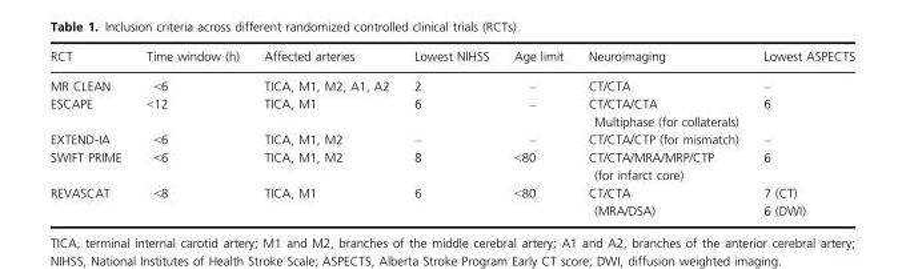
<table><thead><tr><td>RCT</td><td>Time window (h)</td><td>Affected arteries</td><td>Lowest NIHSS</td><td>Age limit</td><td>Neuroimaging</td><td>Lowest ASPECTS</td></tr></thead><tbody><tr><td>MR CLEAN</td><td>&lt;6</td><td>TICA, M1, M2, A1, A2</td><td>2</td><td>–</td><td>CT/CTA</td><td>–</td></tr><tr><td>ESCAPE</td><td>&lt;12</td><td>TICA, M1</td><td>6</td><td>–</td><td>CT/CTA/CTA Multiphase (for collaterals)</td><td>6</td></tr><tr><td>EXTEND-IA</td><td>&lt;6</td><td>TICA, M1, M2</td><td>–</td><td>–</td><td>CT/CTA/CTP (for mismatch)</td><td>–</td></tr><tr><td>SWIFT PRIME</td><td>&lt;6</td><td>TICA, M1, M2</td><td>8</td><td>&lt;80</td><td>CT/CTA/MRA/MRP/CTP (for infarct core)</td><td>6</td></tr><tr><td>REVASCAT</td><td>&lt;8</td><td>TICA, M1</td><td>6</td><td>&lt;80</td><td>CT/CTA (MRA/DSA)</td><td>7 (CT) 6 (DWI)</td></tr></tbody></table>